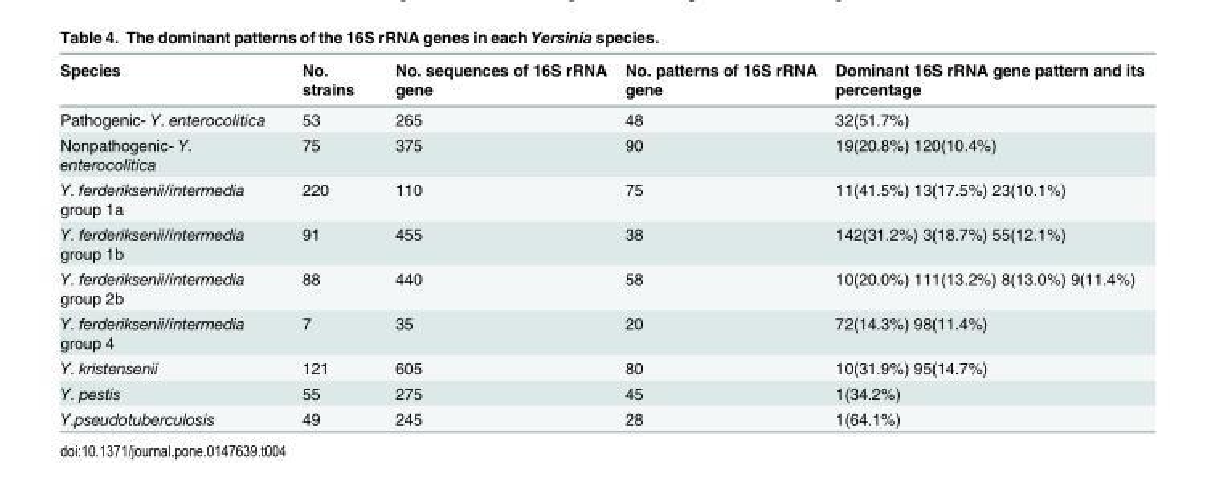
<table><thead><tr><td>Species</td><td>No. strains</td><td>No. sequences of 16S rRNA gene</td><td>No. patterns of 16S rRNA gene</td><td>Dominant 16S rRNA gene pattern and its percentage</td></tr></thead><tbody><tr><td>Pathogenic- Y. enterocolitica</td><td>53</td><td>265</td><td>48</td><td>32(51.7%)</td></tr><tr><td>Nonpathogenic- Y. enterocolitica</td><td>75</td><td>375</td><td>90</td><td>19(20.8%) 120(10.4%)</td></tr><tr><td>Y. ferderiksenii/intermedia group 1a</td><td>220</td><td>110</td><td>75</td><td>11(41.5%) 13(17.5%) 23(10.1%)</td></tr><tr><td>Y. ferderiksenii/intermedia group 1b</td><td>91</td><td>455</td><td>38</td><td>142(31.2%) 3(18.7%) 55(12.1%)</td></tr><tr><td>Y. ferderiksenii/intermedia group 2b</td><td>88</td><td>440</td><td>58</td><td>10(20.0%) 111(13.2%) 8(13.0%) 9(11.4%)</td></tr><tr><td>Y. ferderiksenii/intermedia group 4</td><td>7</td><td>35</td><td>20</td><td>72(14.3%) 98(11.4%)</td></tr><tr><td>Y. kristensenii</td><td>121</td><td>605</td><td>80</td><td>10(31.9%) 95(14.7%)</td></tr><tr><td>Y. pestis</td><td>55</td><td>275</td><td>45</td><td>1(34.2%)</td></tr><tr><td>Y.pseudotuberculosis</td><td>49</td><td>245</td><td>28</td><td>1(64.1%)</td></tr></tbody></table>